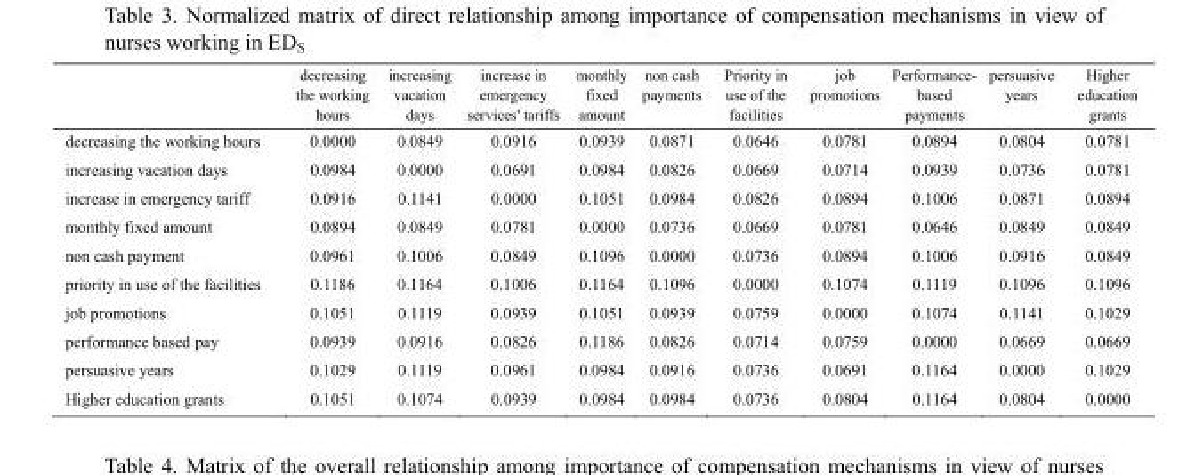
<table><thead><tr><td></td><td>decreasing the working hours</td><td>increasing vacation days</td><td>increase in emergency services&#x27; tariffs</td><td>monthly fixed amount</td><td>non cash payments</td><td>Priority in use of the facilities</td><td>job promotions</td><td>Performance- based payments</td><td>persuasive years</td><td>Higher education grants</td></tr></thead><tbody><tr><td>decreasing the working hours</td><td>0.0000</td><td>0.0849</td><td>0.0916</td><td>0.0939</td><td>0.0871</td><td>0.0646</td><td>0.0781</td><td>0.0894</td><td>0.0804</td><td>0.0781</td></tr><tr><td>increasing vacation days</td><td>0.0984</td><td>0.0000</td><td>0.0691</td><td>0.0984</td><td>0.0826</td><td>0.0669</td><td>0.0714</td><td>0.0939</td><td>0.0736</td><td>0.0781</td></tr><tr><td>increase in emergency tariff</td><td>0.0916</td><td>0.1141</td><td>0.0000</td><td>0.1051</td><td>0.0984</td><td>0.0826</td><td>0.0894</td><td>0.1006</td><td>0.0871</td><td>0.0894</td></tr><tr><td>monthly fixed amount</td><td>0.0894</td><td>0.0849</td><td>0.0781</td><td>0.0000</td><td>0.0736</td><td>0.0669</td><td>0.0781</td><td>0.0646</td><td>0.0849</td><td>0.0849</td></tr><tr><td>non cash payment</td><td>0.0961</td><td>0.1006</td><td>0.0849</td><td>0.1096</td><td>0.0000</td><td>0.0736</td><td>0.0894</td><td>0.1006</td><td>0.0916</td><td>0.0849</td></tr><tr><td>priority in use of the facilities</td><td>0.1186</td><td>0.1164</td><td>0.1006</td><td>0.1164</td><td>0.1096</td><td>0.0000</td><td>0.1074</td><td>0.1119</td><td>0.1096</td><td>0.1096</td></tr><tr><td>job promotions</td><td>0.1051</td><td>0.1119</td><td>0.0939</td><td>0.1051</td><td>0.0939</td><td>0.0759</td><td>0.0000</td><td>0.1074</td><td>0.1141</td><td>0.1029</td></tr><tr><td>performance based pay</td><td>0.0939</td><td>0.0916</td><td>0.0826</td><td>0.1186</td><td>0.0826</td><td>0.0714</td><td>0.0759</td><td>0.0000</td><td>0.0669</td><td>0.0669</td></tr><tr><td>persuasive years</td><td>0.1029</td><td>0.1119</td><td>0.0961</td><td>0.0984</td><td>0.0916</td><td>0.0736</td><td>0.0691</td><td>0.1164</td><td>0.0000</td><td>0.1029</td></tr><tr><td>Higher education grants</td><td>0.1051</td><td>0.1074</td><td>0.0939</td><td>0.0984</td><td>0.0984</td><td>0.0736</td><td>0.0804</td><td>0.1164</td><td>0.0804</td><td>0.0000</td></tr></tbody></table>